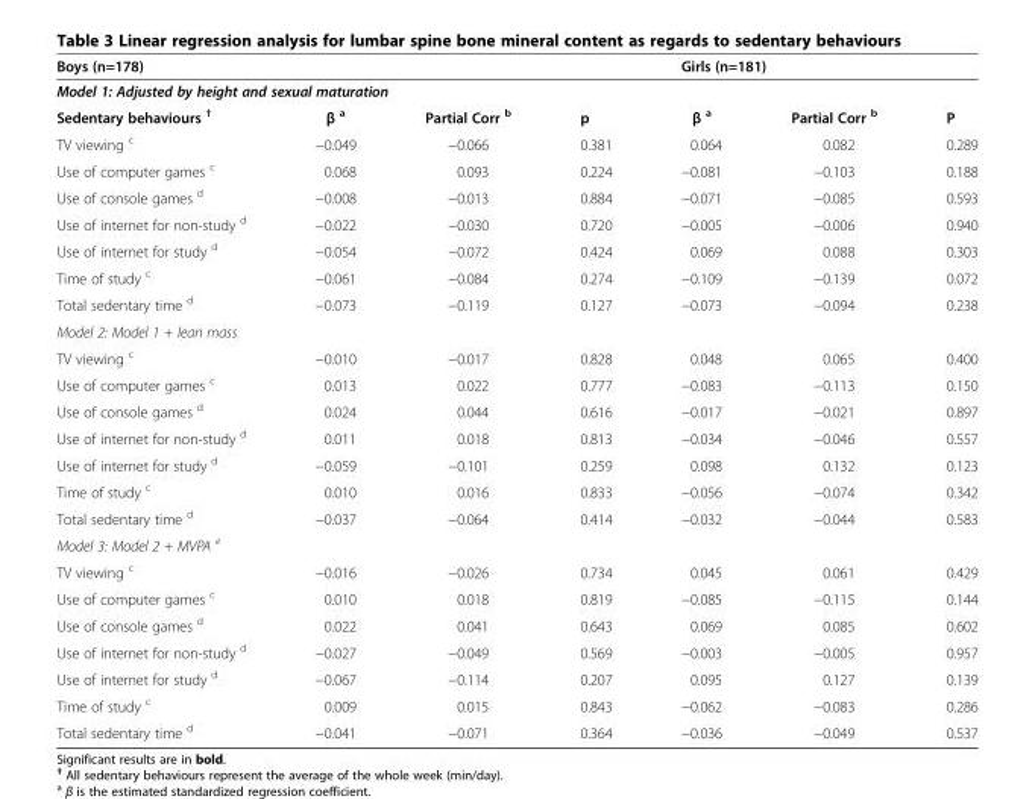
<table><thead><tr><td colspan="4">Boys (n=178)</td><td colspan="3">Girls (n=181)</td></tr><tr><td colspan="7">Model 1: Adjusted by height and sexual maturation</td></tr><tr><td>Sedentary behaviours <sup>†</sup></td><td>β <sup>a</sup></td><td>Partial Corr <sup>b</sup></td><td>p</td><td>β <sup>a</sup></td><td>Partial Corr <sup>b</sup></td><td>P</td></tr></thead><tbody><tr><td>TV viewing <sup>c</sup></td><td>−0.049</td><td>−0.066</td><td>0.381</td><td>0.064</td><td>0.082</td><td>0.289</td></tr><tr><td>Use of computer games <sup>c</sup></td><td>0.068</td><td>0.093</td><td>0.224</td><td>−0.081</td><td>−0.103</td><td>0.188</td></tr><tr><td>Use of console games <sup>d</sup></td><td>−0.008</td><td>−0.013</td><td>0.884</td><td>−0.071</td><td>−0.085</td><td>0.593</td></tr><tr><td>Use of internet for non-study <sup>d</sup></td><td>−0.022</td><td>−0.030</td><td>0.720</td><td>−0.005</td><td>−0.006</td><td>0.940</td></tr><tr><td>Use of internet for study <sup>d</sup></td><td>−0.054</td><td>−0.072</td><td>0.424</td><td>0.069</td><td>0.088</td><td>0.303</td></tr><tr><td>Time of study <sup>c</sup></td><td>−0.061</td><td>−0.084</td><td>0.274</td><td>−0.109</td><td>−0.139</td><td>0.072</td></tr><tr><td>Total sedentary time <sup>d</sup></td><td>−0.073</td><td>−0.119</td><td>0.127</td><td>−0.073</td><td>−0.094</td><td>0.238</td></tr><tr><td colspan="7">Model 2: Model 1 + lean mass</td></tr><tr><td>TV viewing <sup>c</sup></td><td>−0.010</td><td>−0.017</td><td>0.828</td><td>0.048</td><td>0.065</td><td>0.400</td></tr><tr><td>Use of computer games <sup>c</sup></td><td>0.013</td><td>0.022</td><td>0.777</td><td>−0.083</td><td>−0.113</td><td>0.150</td></tr><tr><td>Use of console games <sup>d</sup></td><td>0.024</td><td>0.044</td><td>0.616</td><td>−0.017</td><td>−0.021</td><td>0.897</td></tr><tr><td>Use of internet for non-study <sup>d</sup></td><td>0.011</td><td>0.018</td><td>0.813</td><td>−0.034</td><td>−0.046</td><td>0.557</td></tr><tr><td>Use of internet for study <sup>d</sup></td><td>−0.059</td><td>−0.101</td><td>0.259</td><td>0.098</td><td>0.132</td><td>0.123</td></tr><tr><td>Time of study <sup>c</sup></td><td>0.010</td><td>0.016</td><td>0.833</td><td>−0.056</td><td>−0.074</td><td>0.342</td></tr><tr><td>Total sedentary time <sup>d</sup></td><td>−0.037</td><td>−0.064</td><td>0.414</td><td>−0.032</td><td>−0.044</td><td>0.583</td></tr><tr><td colspan="7">Model 3: Model 2 + MVPA <sup>e</sup></td></tr><tr><td>TV viewing <sup>c</sup></td><td>−0.016</td><td>−0.026</td><td>0.734</td><td>0.045</td><td>0.061</td><td>0.429</td></tr><tr><td>Use of computer games <sup>c</sup></td><td>0.010</td><td>0.018</td><td>0.819</td><td>−0.085</td><td>−0.115</td><td>0.144</td></tr><tr><td>Use of console games <sup>d</sup></td><td>0.022</td><td>0.041</td><td>0.643</td><td>0.069</td><td>0.085</td><td>0.602</td></tr><tr><td>Use of internet for non-study <sup>d</sup></td><td>−0.027</td><td>−0.049</td><td>0.569</td><td>−0.003</td><td>−0.005</td><td>0.957</td></tr><tr><td>Use of internet for study <sup>d</sup></td><td>−0.067</td><td>−0.114</td><td>0.207</td><td>0.095</td><td>0.127</td><td>0.139</td></tr><tr><td>Time of study <sup>c</sup></td><td>0.009</td><td>0.015</td><td>0.843</td><td>−0.062</td><td>−0.083</td><td>0.286</td></tr><tr><td>Total sedentary time <sup>d</sup></td><td>−0.041</td><td>−0.071</td><td>0.364</td><td>−0.036</td><td>−0.049</td><td>0.537</td></tr></tbody></table>